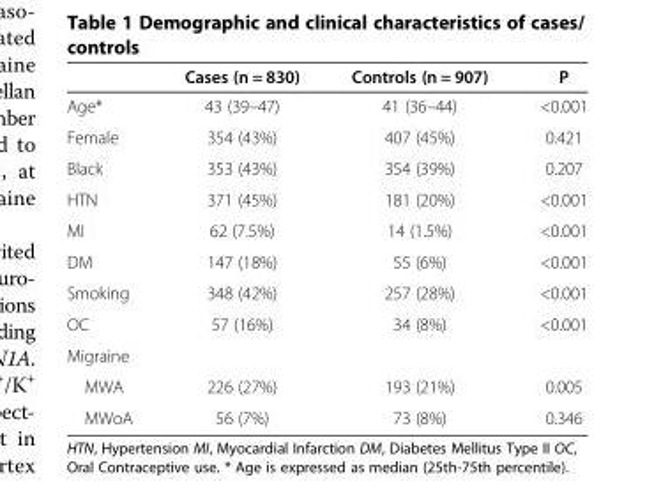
<table><thead><tr><td></td><td>Cases (n = 830)</td><td>Controls (n = 907)</td><td>P</td></tr></thead><tbody><tr><td>Age*</td><td>43 (39–47)</td><td>41 (36–44)</td><td>&lt;0.001</td></tr><tr><td>Female</td><td>354 (43%)</td><td>407 (45%)</td><td>0.421</td></tr><tr><td>Black</td><td>353 (43%)</td><td>354 (39%)</td><td>0.207</td></tr><tr><td>HTN</td><td>371 (45%)</td><td>181 (20%)</td><td>&lt;0.001</td></tr><tr><td>MI</td><td>62 (7.5%)</td><td>14 (1.5%)</td><td>&lt;0.001</td></tr><tr><td>DM</td><td>147 (18%)</td><td>55 (6%)</td><td>&lt;0.001</td></tr><tr><td>Smoking</td><td>348 (42%)</td><td>257 (28%)</td><td>&lt;0.001</td></tr><tr><td>OC</td><td>57 (16%)</td><td>34 (8%)</td><td>&lt;0.001</td></tr><tr><td colspan="4">Migraine</td></tr><tr><td>MWA</td><td>226 (27%)</td><td>193 (21%)</td><td>0.005</td></tr><tr><td>MWoA</td><td>56 (7%)</td><td>73 (8%)</td><td>0.346</td></tr></tbody></table>